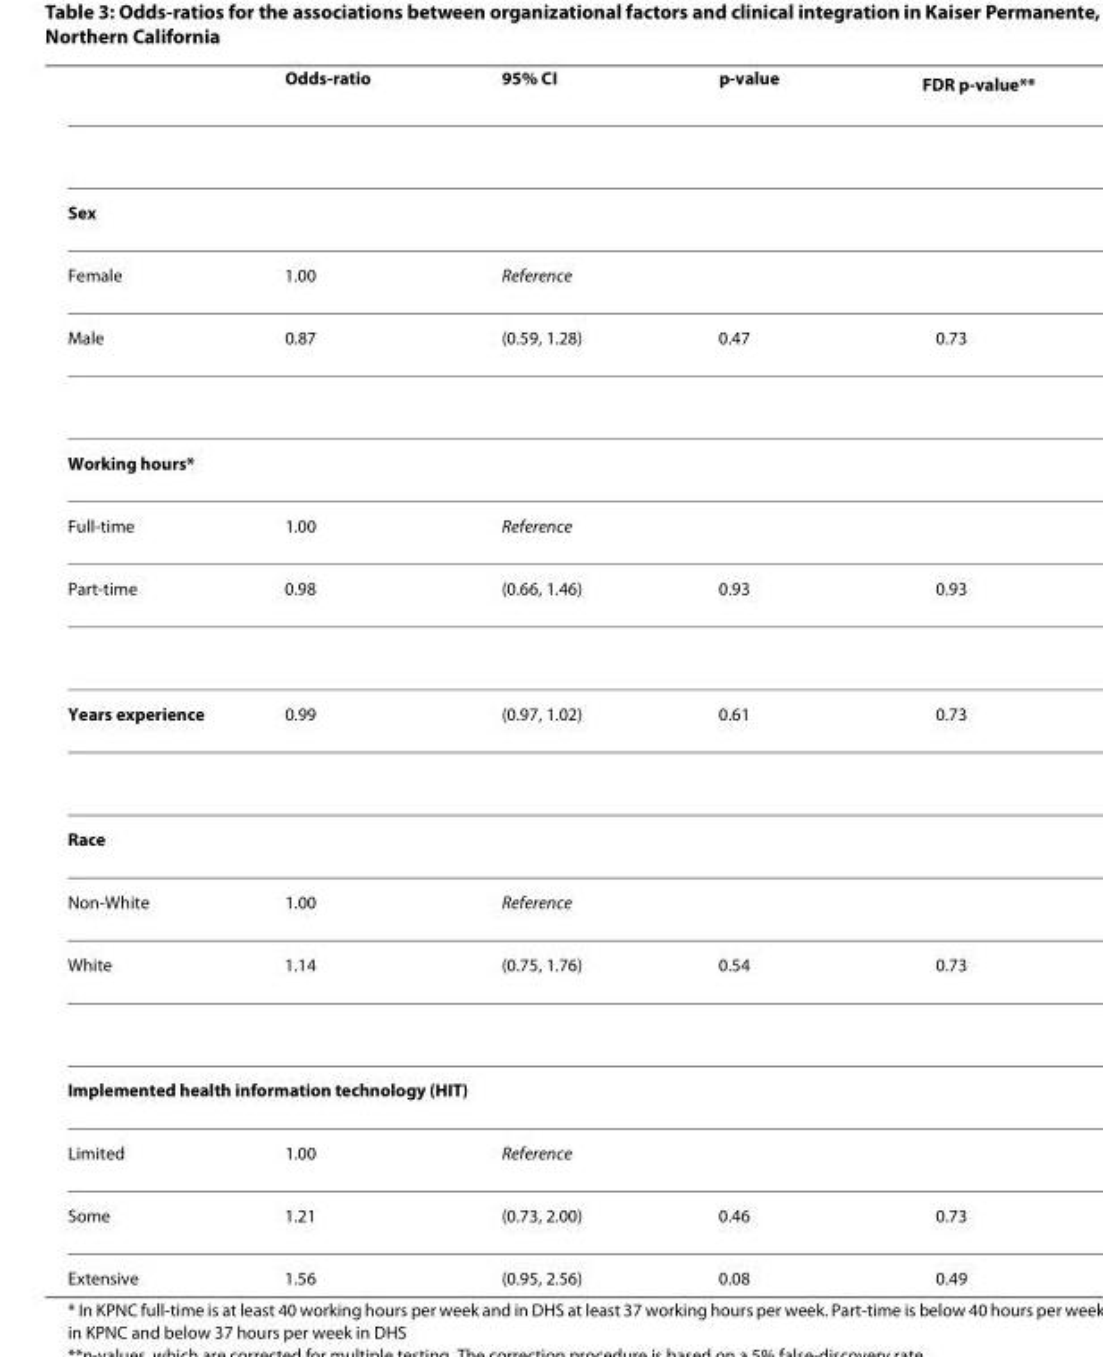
<table><thead><tr><td></td><td>Odds-ratio</td><td>95% CI</td><td>p-value</td><td>FDR p-value**</td></tr></thead><tbody><tr><td colspan="5">Sex</td></tr><tr><td>Female</td><td>1.00</td><td>Reference</td><td></td><td></td></tr><tr><td>Male</td><td>0.87</td><td>(0.59, 1.28)</td><td>0.47</td><td>0.73</td></tr><tr><td colspan="5">Working hours*</td></tr><tr><td>Full-time</td><td>1.00</td><td>Reference</td><td></td><td></td></tr><tr><td>Part-time</td><td>0.98</td><td>(0.66, 1.46)</td><td>0.93</td><td>0.93</td></tr><tr><td>Years experience</td><td>0.99</td><td>(0.97, 1.02)</td><td>0.61</td><td>0.73</td></tr><tr><td colspan="5">Race</td></tr><tr><td>Non-White</td><td>1.00</td><td>Reference</td><td></td><td></td></tr><tr><td>White</td><td>1.14</td><td>(0.75, 1.76)</td><td>0.54</td><td>0.73</td></tr><tr><td colspan="5">Implemented health information technology (HIT)</td></tr><tr><td>Limited</td><td>1.00</td><td>Reference</td><td></td><td></td></tr><tr><td>Some</td><td>1.21</td><td>(0.73, 2.00)</td><td>0.46</td><td>0.73</td></tr><tr><td>Extensive</td><td>1.56</td><td>(0.95, 2.56)</td><td>0.08</td><td>0.49</td></tr></tbody></table>